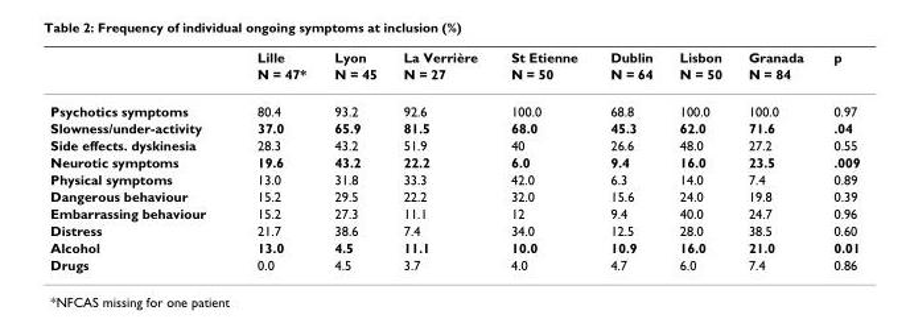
<table><thead><tr><td rowspan="2"></td><td rowspan="2">Lille N = 47*</td><td rowspan="2">Lyon N = 45</td><td rowspan="2">La Verrière N = 27</td><td rowspan="2">St Etienne N = 50</td><td rowspan="2">Dublin N = 64</td><td rowspan="2">Lisbon N = 50</td><td rowspan="2">Granada N = 84</td><td rowspan="2">p</td></tr><tr></tr></thead><tbody><tr><td>Psychotics symptoms</td><td>80.4</td><td>93.2</td><td>92.6</td><td>100.0</td><td>68.8</td><td>100.0</td><td>100.0</td><td>0.97</td></tr><tr><td>Slowness/under-activity</td><td>37.0</td><td>65.9</td><td>81.5</td><td>68.0</td><td>45.3</td><td>62.0</td><td>71.6</td><td>.04</td></tr><tr><td>Side effects. dyskinesia</td><td>28.3</td><td>43.2</td><td>51.9</td><td>40</td><td>26.6</td><td>48.0</td><td>27.2</td><td>0.55</td></tr><tr><td>Neurotic symptoms</td><td>19.6</td><td>43.2</td><td>22.2</td><td>6.0</td><td>9.4</td><td>16.0</td><td>23.5</td><td>.009</td></tr><tr><td>Physical symptoms</td><td>13.0</td><td>31.8</td><td>33.3</td><td>42.0</td><td>6.3</td><td>14.0</td><td>7.4</td><td>0.89</td></tr><tr><td>Dangerous behaviour</td><td>15.2</td><td>29.5</td><td>22.2</td><td>32.0</td><td>15.6</td><td>24.0</td><td>19.8</td><td>0.39</td></tr><tr><td>Embarrassing behaviour</td><td>15.2</td><td>27.3</td><td>11.1</td><td>12</td><td>9.4</td><td>40.0</td><td>24.7</td><td>0.96</td></tr><tr><td>Distress</td><td>21.7</td><td>38.6</td><td>7.4</td><td>34.0</td><td>12.5</td><td>28.0</td><td>38.5</td><td>0.60</td></tr><tr><td>Alcohol</td><td>13.0</td><td>4.5</td><td>11.1</td><td>10.0</td><td>10.9</td><td>16.0</td><td>21.0</td><td>0.01</td></tr><tr><td>Drugs</td><td>0.0</td><td>4.5</td><td>3.7</td><td>4.0</td><td>4.7</td><td>6.0</td><td>7.4</td><td>0.86</td></tr></tbody></table>